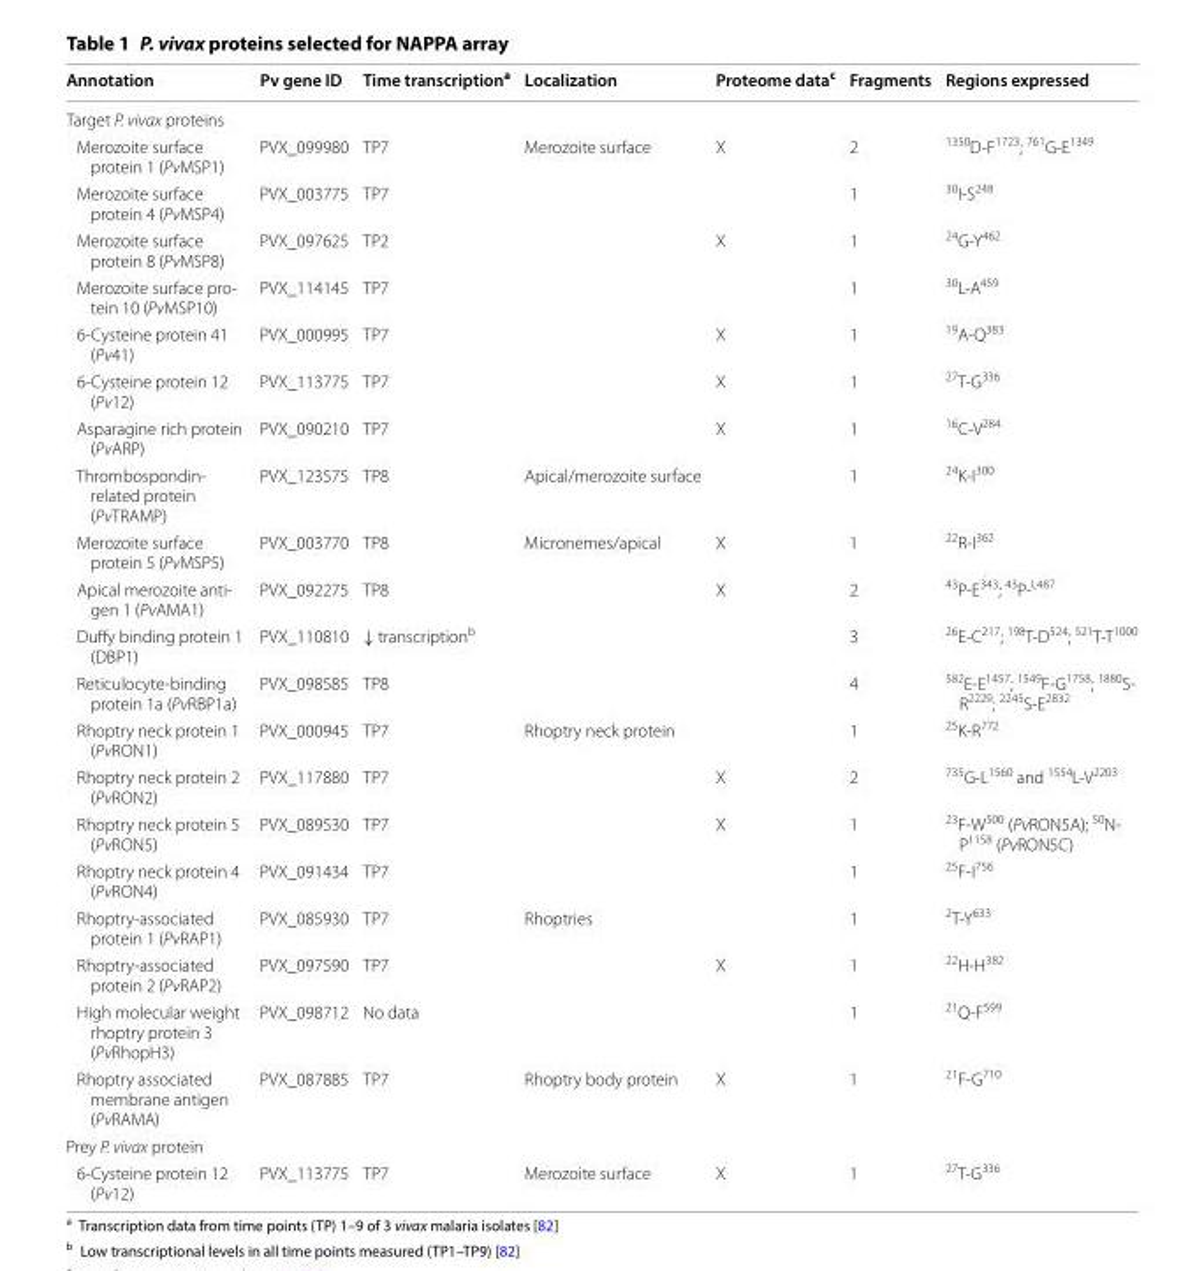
<table><thead><tr><td>Annotation</td><td>Pv gene ID</td><td>Time transcription<sup>a</sup></td><td>Localization</td><td>Proteome data<sup>c</sup></td><td>Fragments</td><td>Regions expressed</td></tr></thead><tbody><tr><td colspan="7">Target P. vivax proteins</td></tr><tr><td>Merozoite surface protein 1 (PvMSP1)</td><td>PVX_099980</td><td>TP7</td><td rowspan="7">Merozoite surface</td><td>X</td><td>2</td><td><sup>1350</sup>D‑F<sup>1723</sup>; <sup>761</sup>G‑E<sup>1349</sup></td></tr><tr><td>Merozoite surface protein 4 (PvMSP4)</td><td>PVX_003775</td><td>TP7</td><td></td><td>1</td><td><sup>30</sup>I‑S<sup>248</sup></td></tr><tr><td>Merozoite surface protein 8 (PvMSP8)</td><td>PVX_097625</td><td>TP2</td><td>X</td><td>1</td><td><sup>24</sup>G‑Y<sup>462</sup></td></tr><tr><td>Merozoite surface pro‑ tein 10 (PvMSP10)</td><td>PVX_114145</td><td>TP7</td><td></td><td>1</td><td><sup>30</sup>L‑A<sup>459</sup></td></tr><tr><td>6‑Cysteine protein 41 (Pv41)</td><td>PVX_000995</td><td>TP7</td><td>X</td><td>1</td><td><sup>19</sup>A‑Q<sup>383</sup></td></tr><tr><td>6‑Cysteine protein 12 (Pv12)</td><td>PVX_113775</td><td>TP7</td><td>X</td><td>1</td><td><sup>27</sup>T‑G<sup>336</sup></td></tr><tr><td>Asparagine rich protein (PvARP)</td><td>PVX_090210</td><td>TP7</td><td>X</td><td>1</td><td><sup>16</sup>C‑V<sup>284</sup></td></tr><tr><td>Thrombospondin‑ related protein (PvTRAMP)</td><td>PVX_123575</td><td>TP8</td><td>Apical/merozoite surface</td><td></td><td>1</td><td><sup>24</sup>K‑I<sup>300</sup></td></tr><tr><td>Merozoite surface protein 5 (PvMSP5)</td><td>PVX_003770</td><td>TP8</td><td rowspan="4">Micronemes/apical</td><td>X</td><td>1</td><td><sup>22</sup>R‑I<sup>362</sup></td></tr><tr><td>Apical merozoite anti‑ gen 1 (PvAMA1)</td><td>PVX_092275</td><td>TP8</td><td>X</td><td>2</td><td><sup>43</sup>P‑E<sup>343</sup>; <sup>43</sup>P‑<sup>L487</sup></td></tr><tr><td>Duffy binding protein 1 (DBP1)</td><td>PVX_110810</td><td>↓ transcription<sup>b</sup></td><td></td><td>3</td><td><sup>26</sup>E‑C<sup>217</sup>; <sup>198</sup>T‑D<sup>524</sup>; <sup>521</sup>T‑T<sup>1000</sup></td></tr><tr><td>Reticulocyte‑binding protein 1a (PvRBP1a)</td><td>PVX_098585</td><td>TP8</td><td></td><td>4</td><td><sup>582</sup>E‑E<sup>1457</sup>; <sup>1549</sup>F‑G<sup>1758</sup>; <sup>1880</sup>S‑ R<sup>2229</sup>; <sup>2245</sup>S‑E<sup>2832</sup></td></tr><tr><td>Rhoptry neck protein 1 (PvRON1)</td><td>PVX_000945</td><td>TP7</td><td rowspan="4">Rhoptry neck protein</td><td></td><td>1</td><td><sup>25</sup>K‑R<sup>772</sup></td></tr><tr><td>Rhoptry neck protein 2 (PvRON2)</td><td>PVX_117880</td><td>TP7</td><td>X</td><td>2</td><td><sup>735</sup>G‑L<sup>1560</sup> and <sup>1554</sup>L‑V<sup>2203</sup></td></tr><tr><td>Rhoptry neck protein 5 (PvRON5)</td><td>PVX_089530</td><td>TP7</td><td>X</td><td>1</td><td><sup>23</sup>F‑W<sup>500</sup> (PvRON5A); <sup>50</sup>N‑ P<sup>1158</sup> (PvRON5C)</td></tr><tr><td>Rhoptry neck protein 4 (PvRON4)</td><td>PVX_091434</td><td>TP7</td><td></td><td>1</td><td><sup>25</sup>F‑I<sup>756</sup></td></tr><tr><td>Rhoptry‑associated protein 1 (PvRAP1)</td><td>PVX_085930</td><td>TP7</td><td rowspan="3">Rhoptries</td><td></td><td>1</td><td><sup>2</sup>T‑Y<sup>633</sup></td></tr><tr><td>Rhoptry‑associated protein 2 (PvRAP2)</td><td>PVX_097590</td><td>TP7</td><td>X</td><td>1</td><td><sup>22</sup>H‑H<sup>382</sup></td></tr><tr><td>High molecular weight rhoptry protein 3 (PvRhopH3)</td><td>PVX_098712</td><td>No data</td><td></td><td>1</td><td><sup>21</sup>Q‑F<sup>599</sup></td></tr><tr><td>Rhoptry associated membrane antigen (PvRAMA)</td><td>PVX_087885</td><td>TP7</td><td>Rhoptry body protein</td><td>X</td><td>1</td><td><sup>21</sup>F‑G<sup>710</sup></td></tr><tr><td colspan="7">Prey P. vivax protein</td></tr><tr><td>6‑Cysteine protein 12 (Pv12)</td><td>PVX_113775</td><td>TP7</td><td>Merozoite surface</td><td>X</td><td>1</td><td><sup>27</sup>T‑G<sup>336</sup></td></tr></tbody></table>